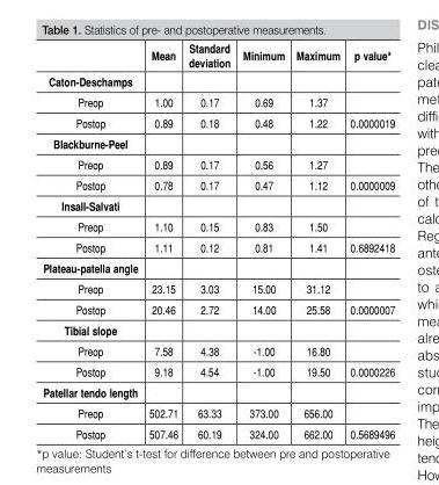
<table><thead><tr><td rowspan="2">Caton-Deschamps</td><td rowspan="2">Mean</td><td rowspan="2">Standard deviation</td><td rowspan="2">Minimum</td><td rowspan="2">Maximum</td><td rowspan="2">p value*</td></tr><tr></tr></thead><tbody><tr><td>Preop</td><td>1.00</td><td>0.17</td><td>0.69</td><td>1.37</td><td></td></tr><tr><td>Postop</td><td>0.89</td><td>0.18</td><td>0.48</td><td>1.22</td><td>0.0000019</td></tr><tr><td colspan="6">Blackburne-Peel</td></tr><tr><td>Preop</td><td>0.89</td><td>0.17</td><td>0.56</td><td>1.27</td><td></td></tr><tr><td>Postop</td><td>0.78</td><td>0.17</td><td>0.47</td><td>1.12</td><td>0.0000009</td></tr><tr><td colspan="6">Insall-Salvati</td></tr><tr><td>Preop</td><td>1.10</td><td>0.15</td><td>0.83</td><td>1.50</td><td></td></tr><tr><td>Postop</td><td>1.11</td><td>0.12</td><td>0.81</td><td>1.41</td><td>0.6892418</td></tr><tr><td colspan="6">Plateau-patella angle</td></tr><tr><td>Preop</td><td>23.15</td><td>3.03</td><td>15.00</td><td>31.12</td><td></td></tr><tr><td>Postop</td><td>20.46</td><td>2.72</td><td>14.00</td><td>25.58</td><td>0.0000007</td></tr><tr><td colspan="6">Tibial slope</td></tr><tr><td>Preop</td><td>7.58</td><td>4.38</td><td>-1.00</td><td>16.80</td><td></td></tr><tr><td>Postop</td><td>9.18</td><td>4.54</td><td>-1.00</td><td>19.50</td><td>0.0000226</td></tr><tr><td colspan="6">Patellar tendo length</td></tr><tr><td>Preop</td><td>502.71</td><td>63.33</td><td>373.00</td><td>656.00</td><td></td></tr><tr><td>Postop</td><td>507.46</td><td>60.19</td><td>324.00</td><td>662.00</td><td>0.5689496</td></tr></tbody></table>